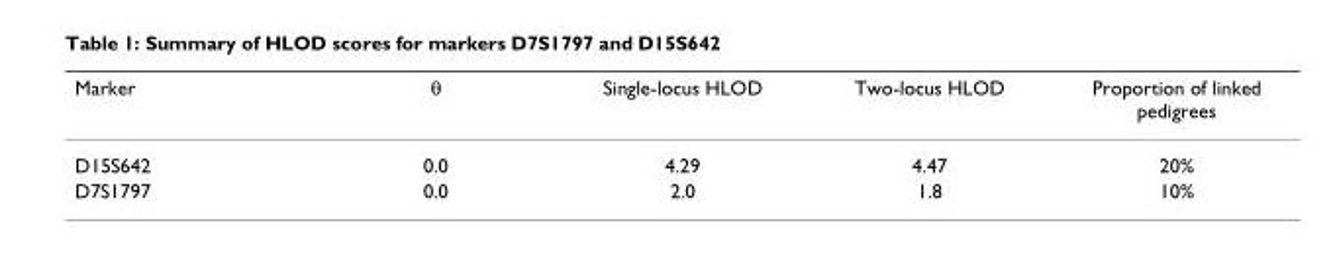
<table><thead><tr><td>Marker</td><td>θ</td><td>Single-locus HLOD</td><td>Two-locus HLOD</td><td>Proportion of linked pedigrees</td></tr></thead><tbody><tr><td>D15S642</td><td>0.0</td><td>4.29</td><td>4.47</td><td>20%</td></tr><tr><td>D7S1797</td><td>0.0</td><td>2.0</td><td>1.8</td><td>10%</td></tr></tbody></table>